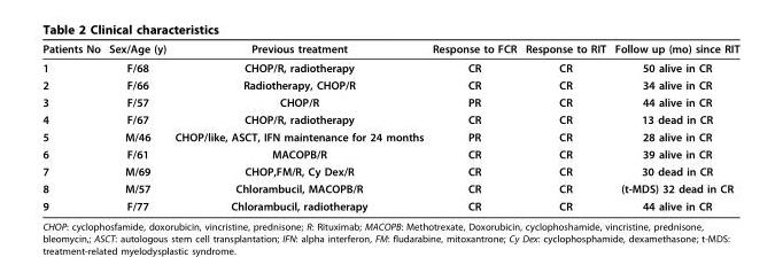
<table><thead><tr><td>Patients No</td><td>Sex/Age (y)</td><td>Previous treatment</td><td>Response to FCR</td><td>Response to RIT</td><td>Follow up (mo) since RIT</td></tr></thead><tbody><tr><td>1</td><td>F/68</td><td>CHOP/R, radiotherapy</td><td>CR</td><td>CR</td><td>50 alive in CR</td></tr><tr><td>2</td><td>F/66</td><td>Radiotherapy, CHOP/R</td><td>CR</td><td>CR</td><td>34 alive in CR</td></tr><tr><td>3</td><td>F/57</td><td>CHOP/R</td><td>PR</td><td>CR</td><td>44 alive in CR</td></tr><tr><td>4</td><td>F/67</td><td>CHOP/R, radiotherapy</td><td>CR</td><td>CR</td><td>13 dead in CR</td></tr><tr><td>5</td><td>M/46</td><td>CHOP/like, ASCT, IFN maintenance for 24 months</td><td>PR</td><td>CR</td><td>28 alive in CR</td></tr><tr><td>6</td><td>F/61</td><td>MACOPB/R</td><td>CR</td><td>CR</td><td>39 alive in CR</td></tr><tr><td>7</td><td>M/69</td><td>CHOP,FM/R, Cy Dex/R</td><td>CR</td><td>CR</td><td>30 dead in CR</td></tr><tr><td>8</td><td>M/57</td><td>Chlorambucil, MACOPB/R</td><td>CR</td><td>CR</td><td>(t-MDS) 32 dead in CR</td></tr><tr><td>9</td><td>F/77</td><td>Chlorambucil, radiotherapy</td><td>CR</td><td>CR</td><td>44 alive in CR</td></tr></tbody></table>